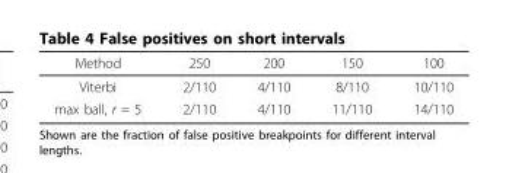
<table><thead><tr><td>Method</td><td>250</td><td>200</td><td>150</td><td>100</td></tr></thead><tbody><tr><td>Viterbi</td><td>2/110</td><td>4/110</td><td>8/110</td><td>10/110</td></tr><tr><td>max ball, r = 5</td><td>2/110</td><td>4/110</td><td>11/110</td><td>14/110</td></tr></tbody></table>